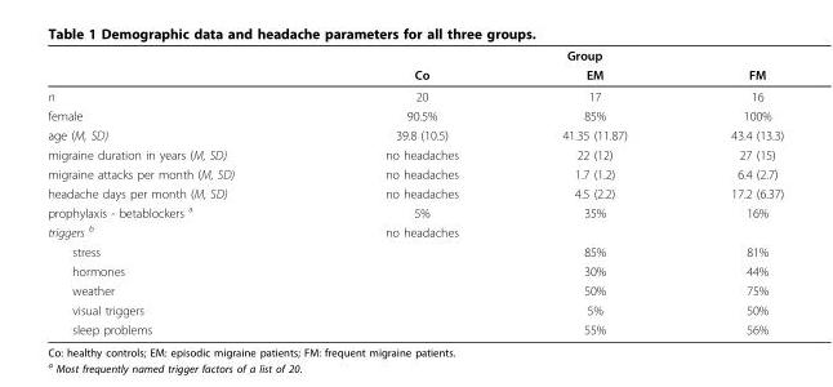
<table><thead><tr><td rowspan="2"></td><td colspan="3">Group</td></tr><tr><td>Co</td><td>EM</td><td>FM</td></tr></thead><tbody><tr><td>n</td><td>20</td><td>17</td><td>16</td></tr><tr><td>female</td><td>90.5%</td><td>85%</td><td>100%</td></tr><tr><td>age (M, SD)</td><td>39.8 (10.5)</td><td>41.35 (11.87)</td><td>43.4 (13.3)</td></tr><tr><td>migraine duration in years (M, SD)</td><td>no headaches</td><td>22 (12)</td><td>27 (15)</td></tr><tr><td>migraine attacks per month (M, SD)</td><td>no headaches</td><td>1.7 (1.2)</td><td>6.4 (2.7)</td></tr><tr><td>headache days per month (M, SD)</td><td>no headaches</td><td>4.5 (2.2)</td><td>17.2 (6.37)</td></tr><tr><td>prophylaxis - betablockers <sup>a</sup></td><td>5%</td><td>35%</td><td>16%</td></tr><tr><td>triggers <sup>b</sup></td><td>no headaches</td><td></td><td></td></tr><tr><td>stress</td><td></td><td>85%</td><td>81%</td></tr><tr><td>hormones</td><td></td><td>30%</td><td>44%</td></tr><tr><td>weather</td><td></td><td>50%</td><td>75%</td></tr><tr><td>visual triggers</td><td></td><td>5%</td><td>50%</td></tr><tr><td>sleep problems</td><td></td><td>55%</td><td>56%</td></tr></tbody></table>